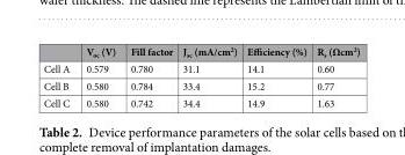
<table><thead><tr><td></td><td>V<sub>oc</sub> (V)</td><td>Fill factor</td><td>J<sub>sc</sub> (mA/cm<sup>2</sup>)</td><td>Efficiency (%)</td><td>R<sub>s</sub> (Ωcm<sup>2</sup>)</td></tr></thead><tbody><tr><td>Cell A</td><td>0.579</td><td>0.780</td><td>31.1</td><td>14.1</td><td>0.60</td></tr><tr><td>Cell B</td><td>0.580</td><td>0.784</td><td>33.4</td><td>15.2</td><td>0.77</td></tr><tr><td>Cell C</td><td>0.580</td><td>0.742</td><td>34.4</td><td>14.9</td><td>1.63</td></tr></tbody></table>